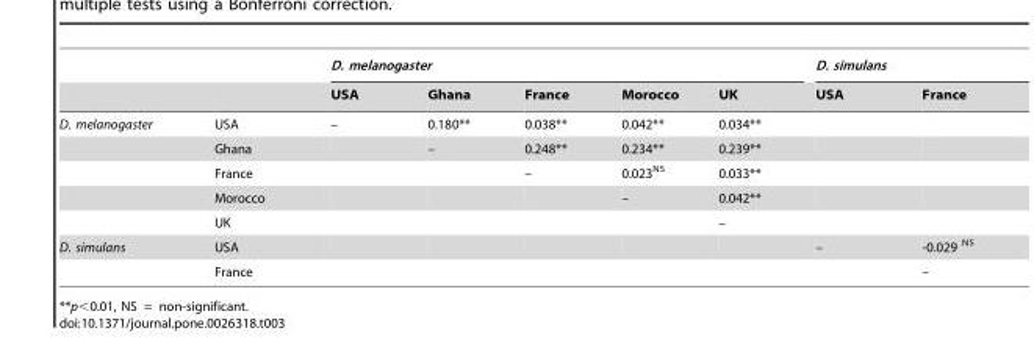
<table><thead><tr><td rowspan="2"></td><td rowspan="2"></td><td colspan="5">D. melanogaster</td><td colspan="2">D. simulans</td></tr><tr><td>USA</td><td>Ghana</td><td>France</td><td>Morocco</td><td>UK</td><td>USA</td><td>France</td></tr></thead><tbody><tr><td rowspan="5">D. melanogaster</td><td>USA</td><td>–</td><td>0.180**</td><td>0.038**</td><td>0.042**</td><td>0.034**</td><td></td><td></td></tr><tr><td>Ghana</td><td></td><td>–</td><td>0.248**</td><td>0.234**</td><td>0.239**</td><td></td><td></td></tr><tr><td>France</td><td></td><td></td><td>–</td><td>0.023<sup>NS</sup></td><td>0.033**</td><td></td><td></td></tr><tr><td>Morocco</td><td></td><td></td><td></td><td>–</td><td>0.042**</td><td></td><td></td></tr><tr><td>UK</td><td></td><td></td><td></td><td></td><td>–</td><td></td><td></td></tr><tr><td rowspan="2">D. simulans</td><td>USA</td><td></td><td></td><td></td><td></td><td></td><td>–</td><td>-0.029 <sup>NS</sup></td></tr><tr><td>France</td><td></td><td></td><td></td><td></td><td></td><td></td><td>–</td></tr></tbody></table>